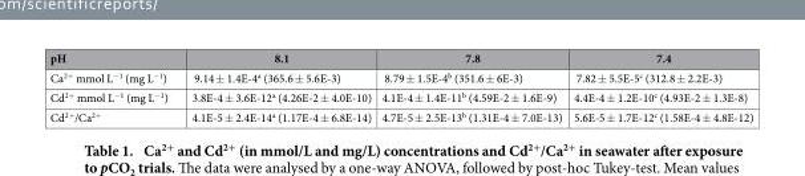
<table><thead><tr><td>pH</td><td>8.1</td><td>7.8</td><td>7.4</td></tr></thead><tbody><tr><td>Ca<sup>2+</sup> mmol L<sup>−1</sup> (mg L<sup>−1</sup>)</td><td>9.14 ± 1.4E-4<sup>a</sup> (365.6 ± 5.6E-3)</td><td>8.79 ± 1.5E-4<sup>b</sup> (351.6 ± 6E-3)</td><td>7.82 ± 5.5E-5<sup>c</sup> (312.8 ± 2.2E-3)</td></tr><tr><td>Cd<sup>2+</sup> mmol L<sup>−1</sup> (mg L<sup>−1</sup>)</td><td>3.8E-4 ± 3.6E-12<sup>a</sup> (4.26E-2 ± 4.0E-10)</td><td>4.1E-4 ± 1.4E-11<sup>b</sup> (4.59E-2 ± 1.6E-9)</td><td>4.4E-4 ± 1.2E-10<sup>c</sup> (4.93E-2 ± 1.3E-8)</td></tr><tr><td>Cd<sup>2+</sup>/Ca<sup>2+</sup></td><td>4.1E-5 ± 2.4E-14<sup>a</sup> (1.17E-4 ± 6.8E-14)</td><td>4.7E-5 ± 2.5E-13<sup>b</sup> (1.31E-4 ± 7.0E-13)</td><td>5.6E-5 ± 1.7E-12<sup>c</sup> (1.58E-4 ± 4.8E-12)</td></tr></tbody></table>